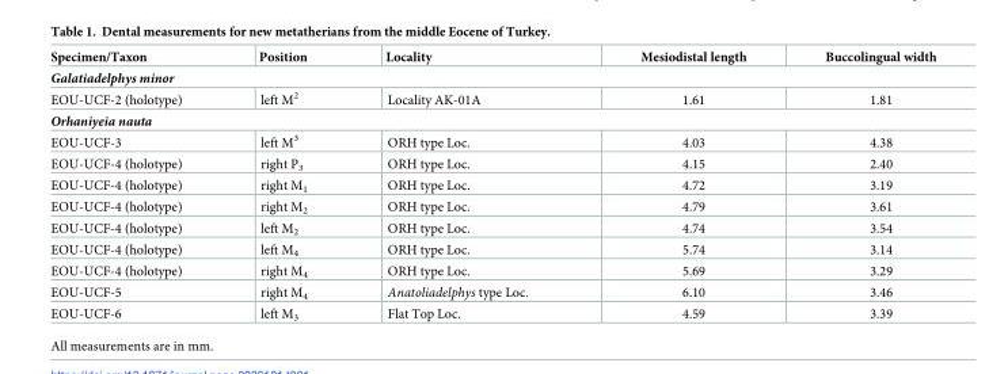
<table><thead><tr><td>Specimen/Taxon</td><td>Position</td><td>Locality</td><td>Mesiodistal length</td><td>Buccolingual width</td></tr></thead><tbody><tr><td colspan="5">Galatiadelphys minor</td></tr><tr><td>EOU-UCF-2 (holotype)</td><td>left M<sup>2</sup></td><td>Locality AK-01A</td><td>1.61</td><td>1.81</td></tr><tr><td colspan="5">Orhaniyeia nauta</td></tr><tr><td>EOU-UCF-3</td><td>left M<sup>3</sup></td><td>ORH type Loc.</td><td>4.03</td><td>4.38</td></tr><tr><td>EOU-UCF-4 (holotype)</td><td>right P<sub>3</sub></td><td>ORH type Loc.</td><td>4.15</td><td>2.40</td></tr><tr><td>EOU-UCF-4 (holotype)</td><td>right M<sub>1</sub></td><td>ORH type Loc.</td><td>4.72</td><td>3.19</td></tr><tr><td>EOU-UCF-4 (holotype)</td><td>right M<sub>2</sub></td><td>ORH type Loc.</td><td>4.79</td><td>3.61</td></tr><tr><td>EOU-UCF-4 (holotype)</td><td>left M<sub>2</sub></td><td>ORH type Loc.</td><td>4.74</td><td>3.54</td></tr><tr><td>EOU-UCF-4 (holotype)</td><td>left M<sub>4</sub></td><td>ORH type Loc.</td><td>5.74</td><td>3.14</td></tr><tr><td>EOU-UCF-4 (holotype)</td><td>right M<sub>4</sub></td><td>ORH type Loc.</td><td>5.69</td><td>3.29</td></tr><tr><td>EOU-UCF-5</td><td>right M<sub>4</sub></td><td>Anatoliadelphys type Loc.</td><td>6.10</td><td>3.46</td></tr><tr><td>EOU-UCF-6</td><td>left M<sub>3</sub></td><td>Flat Top Loc.</td><td>4.59</td><td>3.39</td></tr></tbody></table>